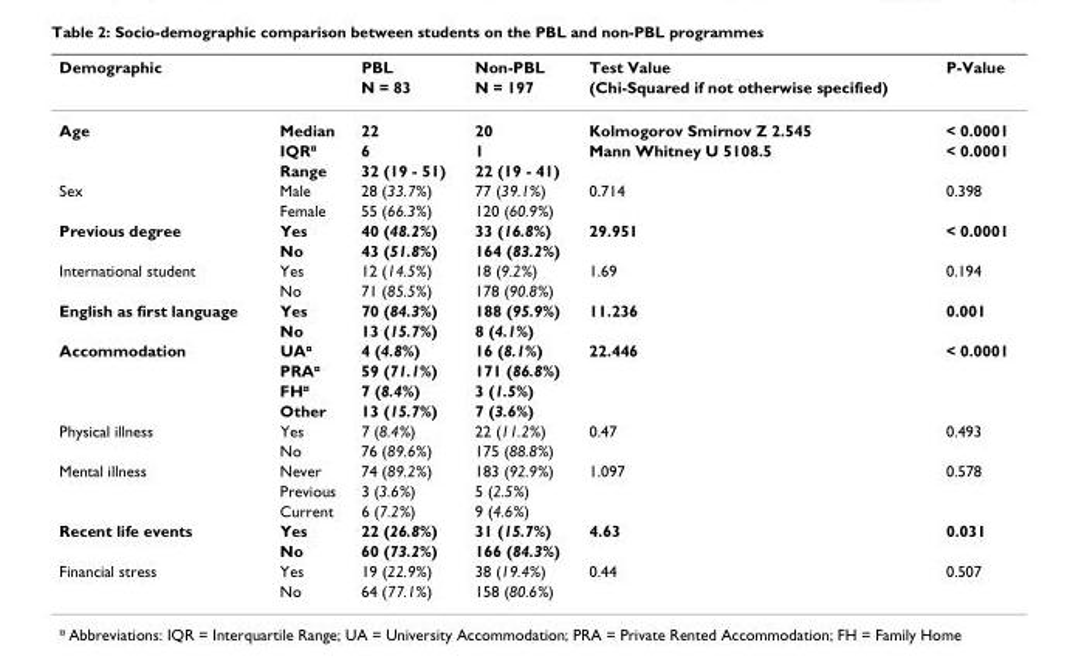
<table><thead><tr><td rowspan="2">Demographic</td><td rowspan="2"></td><td rowspan="2">PBL N = 83</td><td rowspan="2">Non-PBL N = 197</td><td rowspan="2">Test Value (Chi-Squared if not otherwise specified)</td><td rowspan="2">P-Value</td></tr><tr></tr></thead><tbody><tr><td rowspan="3">Age</td><td>Median</td><td>22</td><td>20</td><td>Kolmogorov Smirnov Z 2.545</td><td>&lt; 0.0001</td></tr><tr><td>IQR<sup>¤</sup></td><td>6</td><td>1</td><td>Mann Whitney U 5108.5</td><td>&lt; 0.0001</td></tr><tr><td>Range</td><td>32 (19 - 51)</td><td>22 (19 - 41)</td><td></td><td></td></tr><tr><td rowspan="2">Sex</td><td>Male</td><td>28 (33.7%)</td><td>77 (39.1%)</td><td>0.714</td><td>0.398</td></tr><tr><td>Female</td><td>55 (66.3%)</td><td>120 (60.9%)</td><td></td><td></td></tr><tr><td rowspan="2">Previous degree</td><td>Yes</td><td>40 (48.2%)</td><td>33 (16.8%)</td><td>29.951</td><td>&lt; 0.0001</td></tr><tr><td>No</td><td>43 (51.8%)</td><td>164 (83.2%)</td><td></td><td></td></tr><tr><td rowspan="2">International student</td><td>Yes</td><td>12 (14.5%)</td><td>18 (9.2%)</td><td>1.69</td><td>0.194</td></tr><tr><td>No</td><td>71 (85.5%)</td><td>178 (90.8%)</td><td></td><td></td></tr><tr><td rowspan="2">English as first language</td><td>Yes</td><td>70 (84.3%)</td><td>188 (95.9%)</td><td>11.236</td><td>0.001</td></tr><tr><td>No</td><td>13 (15.7%)</td><td>8 (4.1%)</td><td></td><td></td></tr><tr><td rowspan="4">Accommodation</td><td>UA<sup>¤</sup></td><td>4 (4.8%)</td><td>16 (8.1%)</td><td>22.446</td><td>&lt; 0.0001</td></tr><tr><td>PRA<sup>¤</sup></td><td>59 (71.1%)</td><td>171 (86.8%)</td><td></td><td></td></tr><tr><td>FH<sup>¤</sup></td><td>7 (8.4%)</td><td>3 (1.5%)</td><td></td><td></td></tr><tr><td>Other</td><td>13 (15.7%)</td><td>7 (3.6%)</td><td></td><td></td></tr><tr><td rowspan="2">Physical illness</td><td>Yes</td><td>7 (8.4%)</td><td>22 (11.2%)</td><td>0.47</td><td>0.493</td></tr><tr><td>No</td><td>76 (89.6%)</td><td>175 (88.8%)</td><td></td><td></td></tr><tr><td rowspan="3">Mental illness</td><td>Never</td><td>74 (89.2%)</td><td>183 (92.9%)</td><td>1.097</td><td>0.578</td></tr><tr><td>Previous</td><td>3 (3.6%)</td><td>5 (2.5%)</td><td></td><td></td></tr><tr><td>Current</td><td>6 (7.2%)</td><td>9 (4.6%)</td><td></td><td></td></tr><tr><td rowspan="2">Recent life events</td><td>Yes</td><td>22 (26.8%)</td><td>31 (15.7%)</td><td>4.63</td><td>0.031</td></tr><tr><td>No</td><td>60 (73.2%)</td><td>166 (84.3%)</td><td></td><td></td></tr><tr><td rowspan="2">Financial stress</td><td>Yes</td><td>19 (22.9%)</td><td>38 (19.4%)</td><td>0.44</td><td>0.507</td></tr><tr><td>No</td><td>64 (77.1%)</td><td>158 (80.6%)</td><td></td><td></td></tr></tbody></table>